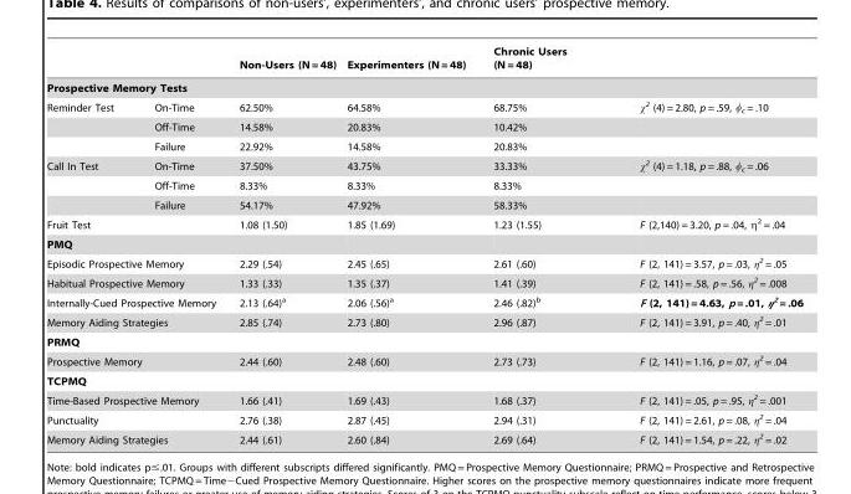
<table><thead><tr><td></td><td></td><td>Non-Users (N = 48)</td><td>Experimenters (N = 48)</td><td>Chronic Users (N = 48)</td><td></td></tr></thead><tbody><tr><td colspan="6">Prospective Memory Tests</td></tr><tr><td rowspan="3">Reminder Test</td><td>On-Time</td><td>62.50%</td><td>64.58%</td><td>68.75%</td><td>χ<sup>2</sup> (4) = 2.80, p = .59, φ<sub>c</sub> = .10</td></tr><tr><td>Off-Time</td><td>14.58%</td><td>20.83%</td><td>10.42%</td><td></td></tr><tr><td>Failure</td><td>22.92%</td><td>14.58%</td><td>20.83%</td><td></td></tr><tr><td rowspan="3">Call In Test</td><td>On-Time</td><td>37.50%</td><td>43.75%</td><td>33.33%</td><td>χ<sup>2</sup> (4) = 1.18, p = .88, φ<sub>c</sub> = .06</td></tr><tr><td>Off-Time</td><td>8.33%</td><td>8.33%</td><td>8.33%</td><td></td></tr><tr><td>Failure</td><td>54.17%</td><td>47.92%</td><td>58.33%</td><td></td></tr><tr><td colspan="2">Fruit Test</td><td>1.08 (1.50)</td><td>1.85 (1.69)</td><td>1.23 (1.55)</td><td>F (2,140) = 3.20, p = .04, η<sup>2</sup> = .04</td></tr><tr><td colspan="6">PMQ</td></tr><tr><td colspan="2">Episodic Prospective Memory</td><td>2.29 (.54)</td><td>2.45 (.65)</td><td>2.61 (.60)</td><td>F (2, 141) = 3.57, p = .03, η<sup>2</sup> = .05</td></tr><tr><td colspan="2">Habitual Prospective Memory</td><td>1.33 (.33)</td><td>1.35 (.37)</td><td>1.41 (.39)</td><td>F (2, 141) = .58, p = .56, η<sup>2</sup> = .008</td></tr><tr><td colspan="2">Internally-Cued Prospective Memory</td><td>2.13 (.64)<sup>a</sup></td><td>2.06 (.56)<sup>a</sup></td><td>2.46 (.82)<sup>b</sup></td><td>F (2, 141) = 4.63, p = .01, η<sup>2</sup> = .06</td></tr><tr><td colspan="2">Memory Aiding Strategies</td><td>2.85 (.74)</td><td>2.73 (.80)</td><td>2.96 (.87)</td><td>F (2, 141) = 3.91, p = .40, η<sup>2</sup> = .01</td></tr><tr><td colspan="6">PRMQ</td></tr><tr><td colspan="2">Prospective Memory</td><td>2.44 (.60)</td><td>2.48 (.60)</td><td>2.73 (.73)</td><td>F (2, 141) = 1.16, p = .07, η<sup>2</sup> = .04</td></tr><tr><td colspan="6">TCPMQ</td></tr><tr><td colspan="2">Time-Based Prospective Memory</td><td>1.66 (.41)</td><td>1.69 (.43)</td><td>1.68 (.37)</td><td>F (2, 141) = .05, p = .95, η<sup>2</sup> = .001</td></tr><tr><td colspan="2">Punctuality</td><td>2.76 (.38)</td><td>2.87 (.45)</td><td>2.94 (.31)</td><td>F (2, 141) = 2.61, p = .08, η<sup>2</sup> = .04</td></tr><tr><td colspan="2">Memory Aiding Strategies</td><td>2.44 (.61)</td><td>2.60 (.84)</td><td>2.69 (.64)</td><td>F (2, 141) = 1.54, p = .22, η<sup>2</sup> = .02</td></tr></tbody></table>